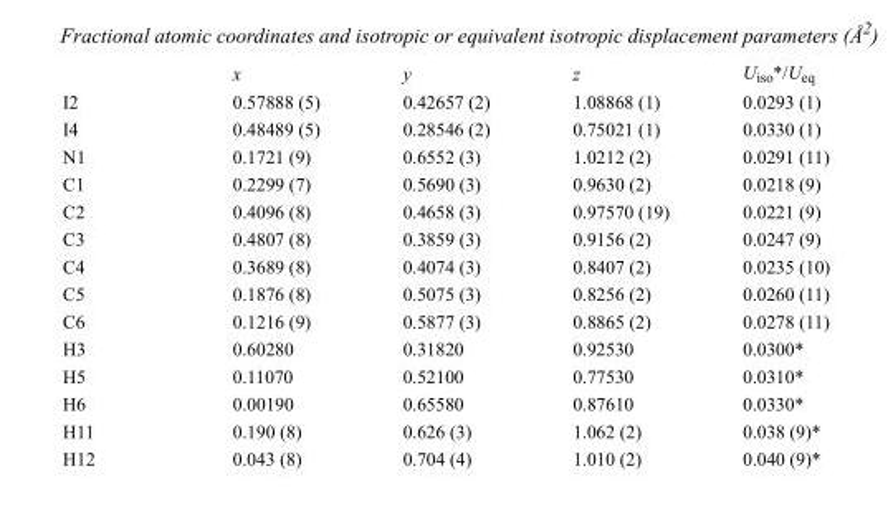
<table><thead><tr><td></td><td>x</td><td>y</td><td>z</td><td>U<sub>iso</sub>*/U<sub>eq</sub></td></tr></thead><tbody><tr><td>I2</td><td>0.57888 (5)</td><td>0.42657 (2)</td><td>1.08868 (1)</td><td>0.0293 (1)</td></tr><tr><td>I4</td><td>0.48489 (5)</td><td>0.28546 (2)</td><td>0.75021 (1)</td><td>0.0330 (1)</td></tr><tr><td>N1</td><td>0.1721 (9)</td><td>0.6552 (3)</td><td>1.0212 (2)</td><td>0.0291 (11)</td></tr><tr><td>C1</td><td>0.2299 (7)</td><td>0.5690 (3)</td><td>0.9630 (2)</td><td>0.0218 (9)</td></tr><tr><td>C2</td><td>0.4096 (8)</td><td>0.4658 (3)</td><td>0.97570 (19)</td><td>0.0221 (9)</td></tr><tr><td>C3</td><td>0.4807 (8)</td><td>0.3859 (3)</td><td>0.9156 (2)</td><td>0.0247 (9)</td></tr><tr><td>C4</td><td>0.3689 (8)</td><td>0.4074 (3)</td><td>0.8407 (2)</td><td>0.0235 (10)</td></tr><tr><td>C5</td><td>0.1876 (8)</td><td>0.5075 (3)</td><td>0.8256 (2)</td><td>0.0260 (11)</td></tr><tr><td>C6</td><td>0.1216 (9)</td><td>0.5877 (3)</td><td>0.8865 (2)</td><td>0.0278 (11)</td></tr><tr><td>H3</td><td>0.60280</td><td>0.31820</td><td>0.92530</td><td>0.0300*</td></tr><tr><td>H5</td><td>0.11070</td><td>0.52100</td><td>0.77530</td><td>0.0310*</td></tr><tr><td>H6</td><td>0.00190</td><td>0.65580</td><td>0.87610</td><td>0.0330*</td></tr><tr><td>H11</td><td>0.190 (8)</td><td>0.626 (3)</td><td>1.062 (2)</td><td>0.038 (9)*</td></tr><tr><td>H12</td><td>0.043 (8)</td><td>0.704 (4)</td><td>1.010 (2)</td><td>0.040 (9)*</td></tr></tbody></table>